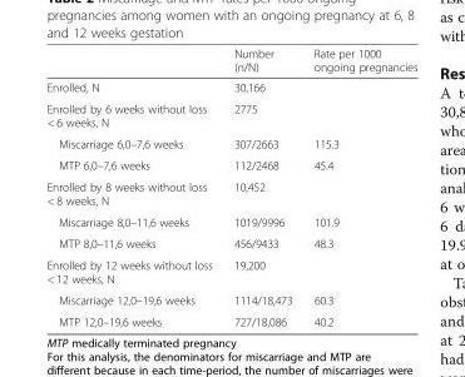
<table><thead><tr><td></td><td>Number (n/N)</td><td>Rate per 1000 ongoing pregnancies</td></tr></thead><tbody><tr><td>Enrolled, N</td><td>30,166</td><td></td></tr><tr><td>Enrolled by 6 weeks without loss &lt; 6 weeks, N</td><td>2775</td><td></td></tr><tr><td>Miscarriage 6,0–7,6 weeks</td><td>307/2663</td><td>115.3</td></tr><tr><td>MTP 6,0–7,6 weeks</td><td>112/2468</td><td>45.4</td></tr><tr><td>Enrolled by 8 weeks without loss &lt; 8 weeks, N</td><td>10,452</td><td></td></tr><tr><td>Miscarriage 8,0–11,6 weeks</td><td>1019/9996</td><td>101.9</td></tr><tr><td>MTP 8,0–11,6 weeks</td><td>456/9433</td><td>48.3</td></tr><tr><td>Enrolled by 12 weeks without loss &lt; 12 weeks, N</td><td>19,200</td><td></td></tr><tr><td>Miscarriage 12,0–19,6 weeks</td><td>1114/18,473</td><td>60.3</td></tr><tr><td>MTP 12,0–19,6 weeks</td><td>727/18,086</td><td>40.2</td></tr></tbody></table>